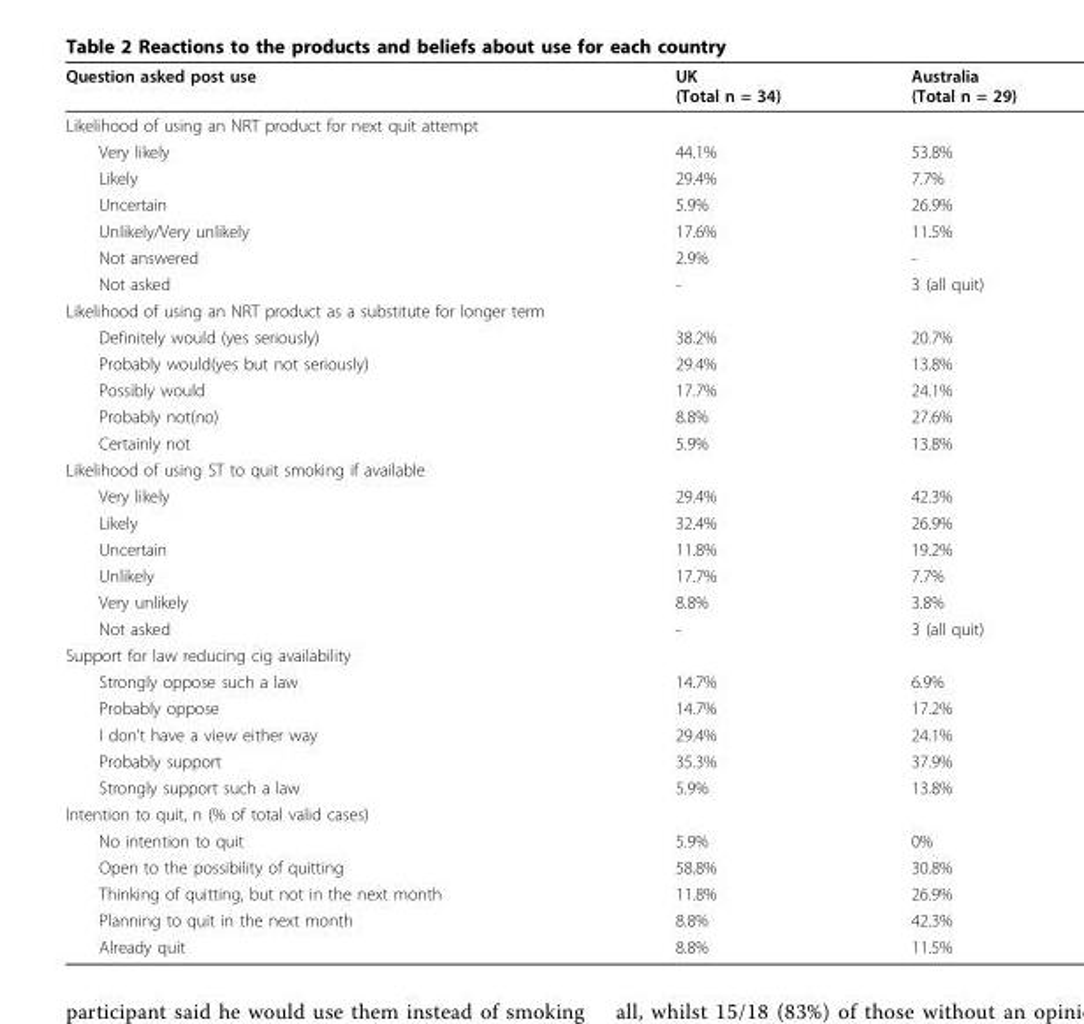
<table><thead><tr><td>Question asked post use</td><td>UK (Total n = 34)</td><td>Australia (Total n = 29)</td></tr></thead><tbody><tr><td colspan="3">Likelihood of using an NRT product for next quit attempt</td></tr><tr><td>Very likely</td><td>44.1%</td><td>53.8%</td></tr><tr><td>Likely</td><td>29.4%</td><td>7.7%</td></tr><tr><td>Uncertain</td><td>5.9%</td><td>26.9%</td></tr><tr><td>Unlikely/Very unlikely</td><td>17.6%</td><td>11.5%</td></tr><tr><td>Not answered</td><td>2.9%</td><td>-</td></tr><tr><td>Not asked</td><td>-</td><td>3 (all quit)</td></tr><tr><td colspan="3">Likelihood of using an NRT product as a substitute for longer term</td></tr><tr><td>Definitely would (yes seriously)</td><td>38.2%</td><td>20.7%</td></tr><tr><td>Probably would(yes but not seriously)</td><td>29.4%</td><td>13.8%</td></tr><tr><td>Possibly would</td><td>17.7%</td><td>24.1%</td></tr><tr><td>Probably not(no)</td><td>8.8%</td><td>27.6%</td></tr><tr><td>Certainly not</td><td>5.9%</td><td>13.8%</td></tr><tr><td colspan="3">Likelihood of using ST to quit smoking if available</td></tr><tr><td>Very likely</td><td>29.4%</td><td>42.3%</td></tr><tr><td>Likely</td><td>32.4%</td><td>26.9%</td></tr><tr><td>Uncertain</td><td>11.8%</td><td>19.2%</td></tr><tr><td>Unlikely</td><td>17.7%</td><td>7.7%</td></tr><tr><td>Very unlikely</td><td>8.8%</td><td>3.8%</td></tr><tr><td>Not asked</td><td>-</td><td>3 (all quit)</td></tr><tr><td colspan="3">Support for law reducing cig availability</td></tr><tr><td>Strongly oppose such a law</td><td>14.7%</td><td>6.9%</td></tr><tr><td>Probably oppose</td><td>14.7%</td><td>17.2%</td></tr><tr><td>I don’t have a view either way</td><td>29.4%</td><td>24.1%</td></tr><tr><td>Probably support</td><td>35.3%</td><td>37.9%</td></tr><tr><td>Strongly support such a law</td><td>5.9%</td><td>13.8%</td></tr><tr><td colspan="3">Intention to quit, n (% of total valid cases)</td></tr><tr><td>No intention to quit</td><td>5.9%</td><td>0%</td></tr><tr><td>Open to the possibility of quitting</td><td>58.8%</td><td>30.8%</td></tr><tr><td>Thinking of quitting, but not in the next month</td><td>11.8%</td><td>26.9%</td></tr><tr><td>Planning to quit in the next month</td><td>8.8%</td><td>42.3%</td></tr><tr><td>Already quit</td><td>8.8%</td><td>11.5%</td></tr></tbody></table>